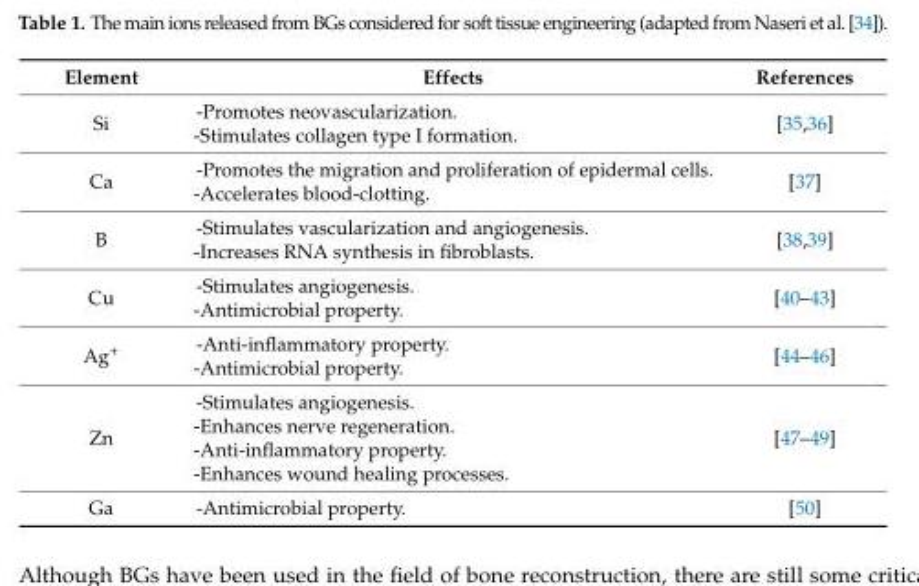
<table><thead><tr><td>Element</td><td>Effects</td><td>References</td></tr></thead><tbody><tr><td>Si</td><td>-Promotes neovascularization. -Stimulates collagen type I formation.</td><td>[35,36]</td></tr><tr><td>Ca</td><td>-Promotes the migration and proliferation of epidermal cells. -Accelerates blood-clotting.</td><td>[37]</td></tr><tr><td>B</td><td>-Stimulates vascularization and angiogenesis. -Increases RNA synthesis in fibroblasts.</td><td>[38,39]</td></tr><tr><td>Cu</td><td>-Stimulates angiogenesis. -Antimicrobial property.</td><td>[40–43]</td></tr><tr><td>Ag<sup>+</sup></td><td>-Anti-inflammatory property. -Antimicrobial property.</td><td>[44–46]</td></tr><tr><td>Zn</td><td>-Stimulates angiogenesis. -Enhances nerve regeneration. -Anti-inflammatory property. -Enhances wound healing processes.</td><td>[47–49]</td></tr><tr><td>Ga</td><td>-Antimicrobial property.</td><td>[50]</td></tr></tbody></table>